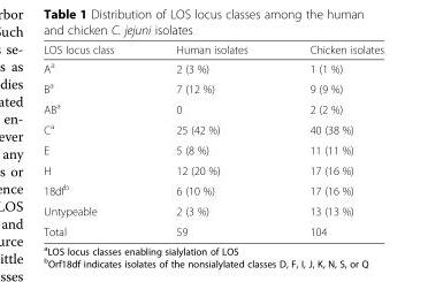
<table><thead><tr><td>LOS locus class</td><td>Human isolates</td><td>Chicken isolates</td></tr></thead><tbody><tr><td>A<sup>a</sup></td><td>2 (3 %)</td><td>1 (1 %)</td></tr><tr><td>B<sup>a</sup></td><td>7 (12 %)</td><td>9 (9 %)</td></tr><tr><td>AB<sup>a</sup></td><td>0</td><td>2 (2 %)</td></tr><tr><td>C<sup>a</sup></td><td>25 (42 %)</td><td>40 (38 %)</td></tr><tr><td>E</td><td>5 (8 %)</td><td>11 (11 %)</td></tr><tr><td>H</td><td>12 (20 %)</td><td>17 (16 %)</td></tr><tr><td>18df<sup>b</sup></td><td>6 (10 %)</td><td>17 (16 %)</td></tr><tr><td>Untypeable</td><td>2 (3 %)</td><td>13 (13 %)</td></tr><tr><td>Total</td><td>59</td><td>104</td></tr></tbody></table>